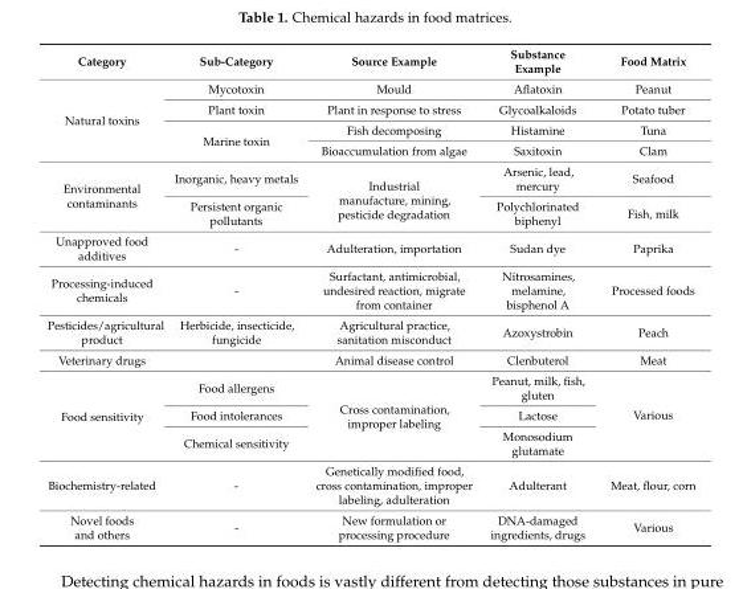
<table><thead><tr><td>Category</td><td>Sub-Category</td><td>Source Example</td><td>Substance Example</td><td>Food Matrix</td></tr></thead><tbody><tr><td rowspan="4">Natural toxins</td><td>Mycotoxin</td><td>Mould</td><td>Aflatoxin</td><td>Peanut</td></tr><tr><td>Plant toxin</td><td>Plant in response to stress</td><td>Glycoalkaloids</td><td>Potato tuber</td></tr><tr><td rowspan="2">Marine toxin</td><td>Fish decomposing</td><td>Histamine</td><td>Tuna</td></tr><tr><td>Bioaccumulation from algae</td><td>Saxitoxin</td><td>Clam</td></tr><tr><td rowspan="2">Environmental contaminants</td><td>Inorganic, heavy metals</td><td rowspan="2">Industrial manufacture, mining, pesticide degradation</td><td>Arsenic, lead, mercury</td><td>Seafood</td></tr><tr><td>Persistent organic pollutants</td><td>Polychlorinated biphenyl</td><td>Fish, milk</td></tr><tr><td>Unapproved food additives</td><td>-</td><td>Adulteration, importation</td><td>Sudan dye</td><td>Paprika</td></tr><tr><td>Processing-induced chemicals</td><td>-</td><td>Surfactant, antimicrobial, undesired reaction, migrate from container</td><td>Nitrosamines, melamine, bisphenol A</td><td>Processed foods</td></tr><tr><td>Pesticides/agricultural product</td><td>Herbicide, insecticide, fungicide</td><td>Agricultural practice, sanitation misconduct</td><td>Azoxystrobin</td><td>Peach</td></tr><tr><td>Veterinary drugs</td><td></td><td>Animal disease control</td><td>Clenbuterol</td><td>Meat</td></tr><tr><td rowspan="3">Food sensitivity</td><td>Food allergens</td><td rowspan="3">Cross contamination, improper labeling</td><td>Peanut, milk, fish, gluten</td><td rowspan="3">Various</td></tr><tr><td>Food intolerances</td><td>Lactose</td></tr><tr><td>Chemical sensitivity</td><td>Monosodium glutamate</td></tr><tr><td>Biochemistry-related</td><td>-</td><td>Genetically modified food, cross contamination, improper labeling, adulteration</td><td>Adulterant</td><td>Meat, flour, corn</td></tr><tr><td>Novel foods and others</td><td>-</td><td>New formulation or processing procedure</td><td>DNA-damaged ingredients, drugs</td><td>Various</td></tr></tbody></table>